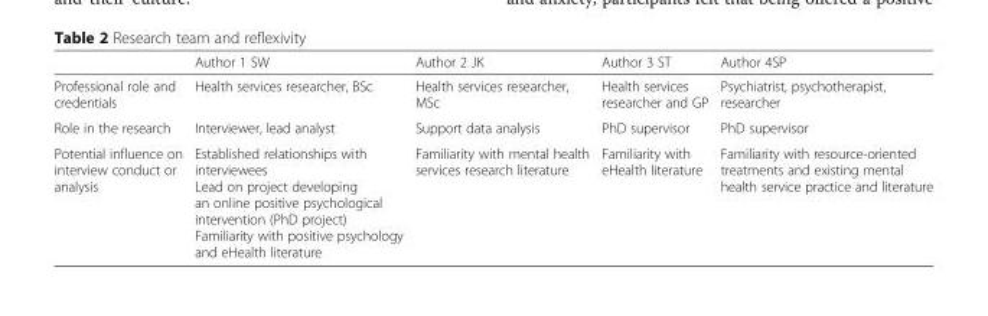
<table><thead><tr><td></td><td>Author 1 SW</td><td>Author 2 JK</td><td>Author 3 ST</td><td>Author 4SP</td></tr></thead><tbody><tr><td>Professional role and credentials</td><td>Health services researcher, BSc</td><td>Health services researcher, MSc</td><td>Health services researcher and GP</td><td>Psychiatrist, psychotherapist, researcher</td></tr><tr><td>Role in the research</td><td>Interviewer, lead analyst</td><td>Support data analysis</td><td>PhD supervisor</td><td>PhD supervisor</td></tr><tr><td>Potential influence on interview conduct or analysis</td><td>Established relationships with interviewees Lead on project developing an online positive psychological intervention (PhD project) Familiarity with positive psychology and eHealth literature</td><td>Familiarity with mental health services research literature</td><td>Familiarity with eHealth literature</td><td>Familiarity with resource-oriented treatments and existing mental health service practice and literature</td></tr></tbody></table>